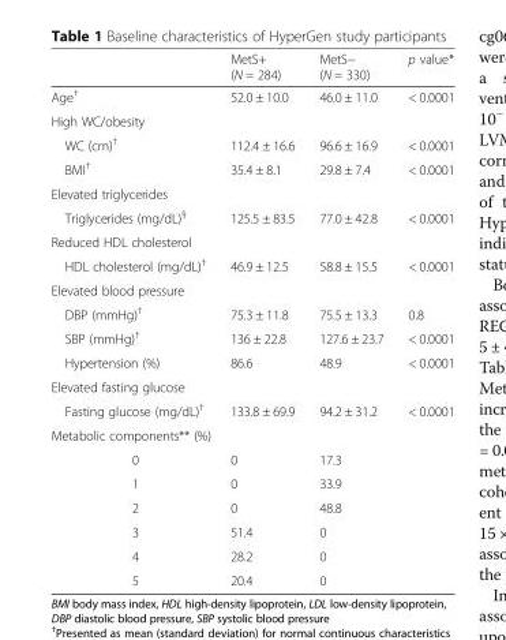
<table><thead><tr><td></td><td>MetS+ (N = 284)</td><td>MetS− (N = 330)</td><td>p value*</td></tr></thead><tbody><tr><td>Age<sup>†</sup></td><td>52.0 ± 10.0</td><td>46.0 ± 11.0</td><td>&lt; 0.0001</td></tr><tr><td colspan="4">High WC/obesity</td></tr><tr><td>WC (cm)<sup>†</sup></td><td>112.4 ± 16.6</td><td>96.6 ± 16.9</td><td>&lt; 0.0001</td></tr><tr><td>BMI<sup>†</sup></td><td>35.4 ± 8.1</td><td>29.8 ± 7.4</td><td>&lt; 0.0001</td></tr><tr><td colspan="4">Elevated triglycerides</td></tr><tr><td>Triglycerides (mg/dL)<sup>§</sup></td><td>125.5 ± 83.5</td><td>77.0 ± 42.8</td><td>&lt; 0.0001</td></tr><tr><td colspan="4">Reduced HDL cholesterol</td></tr><tr><td>HDL cholesterol (mg/dL)<sup>†</sup></td><td>46.9 ± 12.5</td><td>58.8 ± 15.5</td><td>&lt; 0.0001</td></tr><tr><td colspan="4">Elevated blood pressure</td></tr><tr><td>DBP (mmHg)<sup>†</sup></td><td>75.3 ± 11.8</td><td>75.5 ± 13.3</td><td>0.8</td></tr><tr><td>SBP (mmHg)<sup>†</sup></td><td>136 ± 22.8</td><td>127.6 ± 23.7</td><td>&lt; 0.0001</td></tr><tr><td>Hypertension (%)</td><td>86.6</td><td>48.9</td><td>&lt; 0.0001</td></tr><tr><td colspan="4">Elevated fasting glucose</td></tr><tr><td>Fasting glucose (mg/dL)<sup>†</sup></td><td>133.8 ± 69.9</td><td>94.2 ± 31.2</td><td>&lt; 0.0001</td></tr><tr><td colspan="4">Metabolic components** (%)</td></tr><tr><td>0</td><td>0</td><td>17.3</td><td></td></tr><tr><td>1</td><td>0</td><td>33.9</td><td></td></tr><tr><td>2</td><td>0</td><td>48.8</td><td></td></tr><tr><td>3</td><td>51.4</td><td>0</td><td></td></tr><tr><td>4</td><td>28.2</td><td>0</td><td></td></tr><tr><td>5</td><td>20.4</td><td>0</td><td></td></tr></tbody></table>